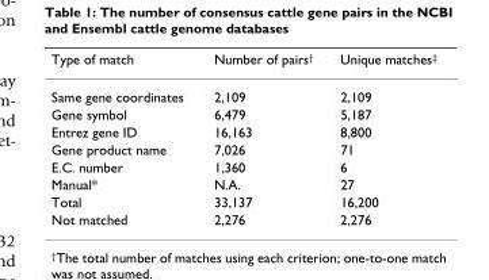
<table><thead><tr><td>Type of match</td><td>Number of pairs<sup>†</sup></td><td>Unique matches<sup>‡</sup></td></tr></thead><tbody><tr><td>Same gene coordinates</td><td>2,109</td><td>2,109</td></tr><tr><td>Gene symbol</td><td>6,479</td><td>5,187</td></tr><tr><td>Entrez gene ID</td><td>16,163</td><td>8,800</td></tr><tr><td>Gene product name</td><td>7,026</td><td>71</td></tr><tr><td>E.C. number</td><td>1,360</td><td>6</td></tr><tr><td>Manual*</td><td>N.A.</td><td>27</td></tr><tr><td>Total</td><td>33,137</td><td>16,200</td></tr><tr><td>Not matched</td><td>2,276</td><td>2,276</td></tr></tbody></table>